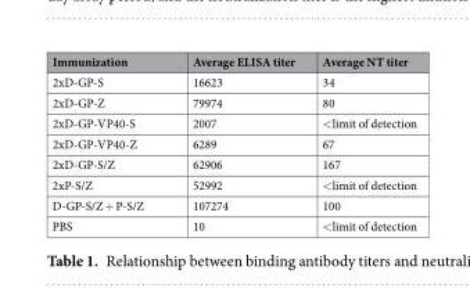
<table><thead><tr><td>Immunization</td><td>Average ELISA titer</td><td>Average NT titer</td></tr></thead><tbody><tr><td>2xD-GP-S</td><td>16623</td><td>34</td></tr><tr><td>2xD-GP-Z</td><td>79974</td><td>80</td></tr><tr><td>2xD-GP-VP40-S</td><td>2007</td><td>&lt;limit of detection</td></tr><tr><td>2xD-GP-VP40-Z</td><td>6289</td><td>67</td></tr><tr><td>2xD-GP-S/Z</td><td>62906</td><td>167</td></tr><tr><td>2xP-S/Z</td><td>52992</td><td>&lt;limit of detection</td></tr><tr><td>D-GP-S/Z + P-S/Z</td><td>107274</td><td>100</td></tr><tr><td>PBS</td><td>10</td><td>&lt;limit of detection</td></tr></tbody></table>